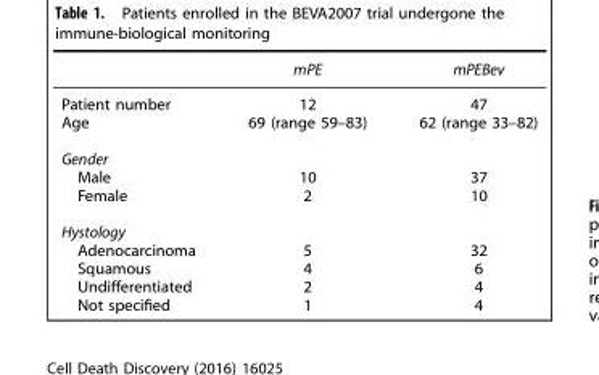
<table><thead><tr><td></td><td>mPE</td><td>mPEBev</td></tr></thead><tbody><tr><td>Patient number</td><td>12</td><td>47</td></tr><tr><td>Age</td><td>69 (range 59–83)</td><td>62 (range 33–82)</td></tr><tr><td colspan="3">Gender</td></tr><tr><td>Male</td><td>10</td><td>37</td></tr><tr><td>Female</td><td>2</td><td>10</td></tr><tr><td colspan="3">Hystology</td></tr><tr><td>Adenocarcinoma</td><td>5</td><td>32</td></tr><tr><td>Squamous</td><td>4</td><td>6</td></tr><tr><td>Undifferentiated</td><td>2</td><td>4</td></tr><tr><td>Not specified</td><td>1</td><td>4</td></tr></tbody></table>